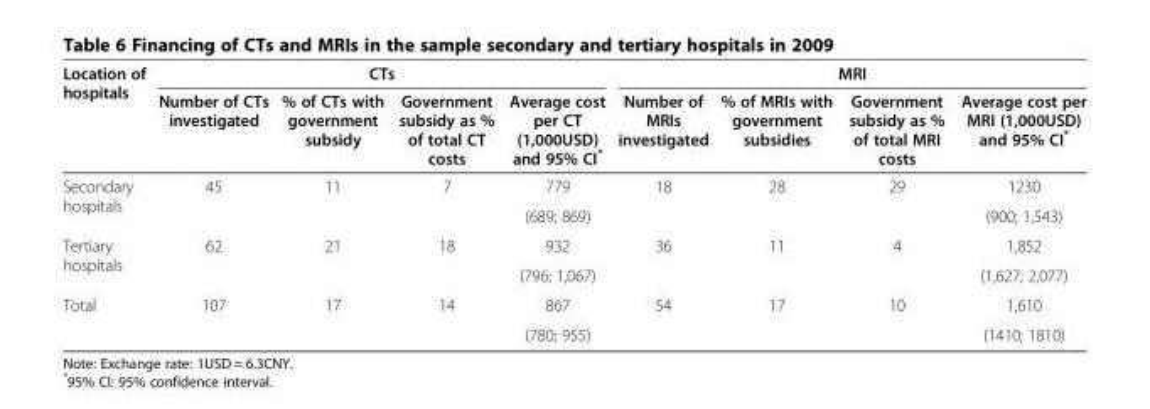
<table><thead><tr><td rowspan="2">Location of hospitals</td><td colspan="4">CTs</td><td colspan="4">MRI</td></tr><tr><td>Number of CTs investigated</td><td>% of CTs with government subsidy</td><td>Government subsidy as % of total CT costs</td><td>Average cost per CT (1,000USD) and 95% CI*</td><td>Number of MRIs investigated</td><td>% of MRIs with government subsidies</td><td>Government subsidy as % of total MRI costs</td><td>Average cost per MRI (1,000USD) and 95% CI*</td></tr></thead><tbody><tr><td rowspan="2">Secondary hospitals</td><td rowspan="2">45</td><td rowspan="2">11</td><td rowspan="2">7</td><td>779</td><td rowspan="2">18</td><td rowspan="2">28</td><td rowspan="2">29</td><td>1230</td></tr><tr><td>(689; 869)</td><td>(900; 1,543)</td></tr><tr><td rowspan="2">Tertiary hospitals</td><td rowspan="2">62</td><td rowspan="2">21</td><td rowspan="2">18</td><td>932</td><td rowspan="2">36</td><td rowspan="2">11</td><td rowspan="2">4</td><td>1,852</td></tr><tr><td>(796; 1,067)</td><td>(1,627; 2,077)</td></tr><tr><td rowspan="2">Total</td><td rowspan="2">107</td><td rowspan="2">17</td><td rowspan="2">14</td><td>867</td><td rowspan="2">54</td><td rowspan="2">17</td><td rowspan="2">10</td><td>1,610</td></tr><tr><td>(780; 955)</td><td>(1410; 1810)</td></tr></tbody></table>